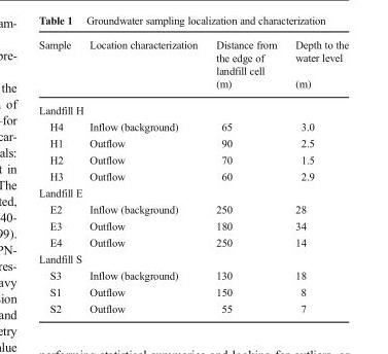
<table><thead><tr><td rowspan="2">Sample</td><td rowspan="2">Location characterization</td><td rowspan="2">Distance from the edge of landfill cell (m)</td><td rowspan="2">Depth to the water level (m)</td></tr><tr></tr></thead><tbody><tr><td colspan="4">Landfill H</td></tr><tr><td>H4</td><td>Inflow (background)</td><td>65</td><td>3.0</td></tr><tr><td>H1</td><td>Outflow</td><td>90</td><td>2.5</td></tr><tr><td>H2</td><td>Outflow</td><td>70</td><td>1.5</td></tr><tr><td>H3</td><td>Outflow</td><td>60</td><td>2.9</td></tr><tr><td colspan="4">Landfill E</td></tr><tr><td>E2</td><td>Inflow (background)</td><td>250</td><td>28</td></tr><tr><td>E3</td><td>Outflow</td><td>180</td><td>34</td></tr><tr><td>E4</td><td>Outflow</td><td>250</td><td>14</td></tr><tr><td colspan="4">Landfill S</td></tr><tr><td>S3</td><td>Inflow (background)</td><td>130</td><td>18</td></tr><tr><td>S1</td><td>Outflow</td><td>150</td><td>8</td></tr><tr><td>S2</td><td>Outflow</td><td>55</td><td>7</td></tr></tbody></table>